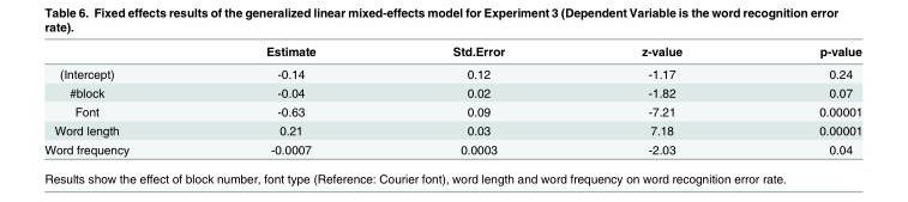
<table><thead><tr><td></td><td>Estimate</td><td>Std.Error</td><td>z-value</td><td>p-value</td></tr></thead><tbody><tr><td>(Intercept)</td><td>-0.14</td><td>0.12</td><td>-1.17</td><td>0.24</td></tr><tr><td>#block</td><td>-0.04</td><td>0.02</td><td>-1.82</td><td>0.07</td></tr><tr><td>Font</td><td>-0.63</td><td>0.09</td><td>-7.21</td><td>0.00001</td></tr><tr><td>Word length</td><td>0.21</td><td>0.03</td><td>7.18</td><td>0.00001</td></tr><tr><td>Word frequency</td><td>-0.0007</td><td>0.0003</td><td>-2.03</td><td>0.04</td></tr></tbody></table>